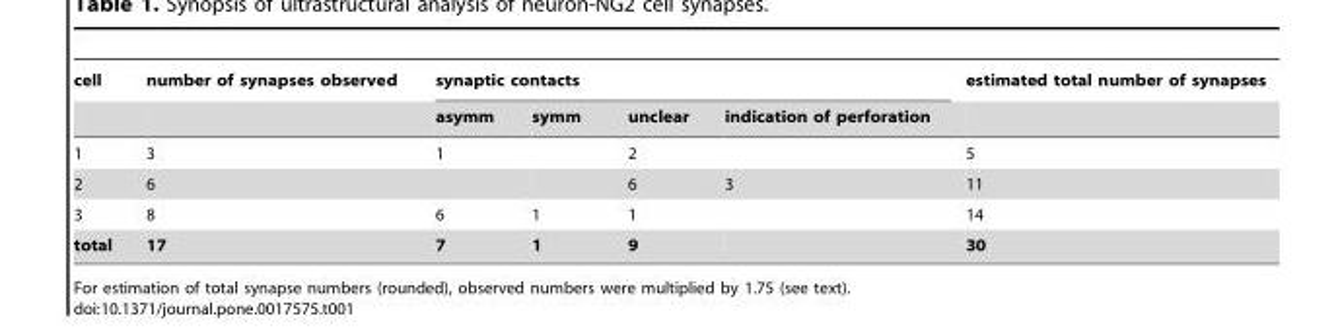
<table><thead><tr><td rowspan="2">cell</td><td rowspan="2">number of synapses observed</td><td colspan="4">synaptic contacts</td><td rowspan="2">estimated total number of synapses</td></tr><tr><td>asymm</td><td>symm</td><td>unclear</td><td>indication of perforation</td></tr></thead><tbody><tr><td>1</td><td>3</td><td>1</td><td></td><td>2</td><td></td><td>5</td></tr><tr><td>2</td><td>6</td><td></td><td></td><td>6</td><td>3</td><td>11</td></tr><tr><td>3</td><td>8</td><td>6</td><td>1</td><td>1</td><td></td><td>14</td></tr><tr><td>total</td><td>17</td><td>7</td><td>1</td><td>9</td><td></td><td>30</td></tr></tbody></table>